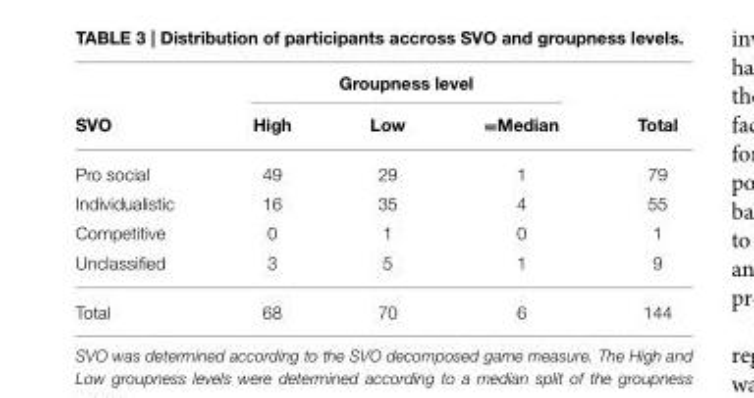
<table><thead><tr><td rowspan="2">SVO</td><td colspan="3">Groupness level</td><td rowspan="2">Total</td></tr><tr><td>High</td><td>Low</td><td>=Median</td></tr></thead><tbody><tr><td>Pro social</td><td>49</td><td>29</td><td>1</td><td>79</td></tr><tr><td>Individualistic</td><td>16</td><td>35</td><td>4</td><td>55</td></tr><tr><td>Competitive</td><td>0</td><td>1</td><td>0</td><td>1</td></tr><tr><td>Unclassified</td><td>3</td><td>5</td><td>1</td><td>9</td></tr><tr><td>Total</td><td>68</td><td>70</td><td>6</td><td>144</td></tr></tbody></table>